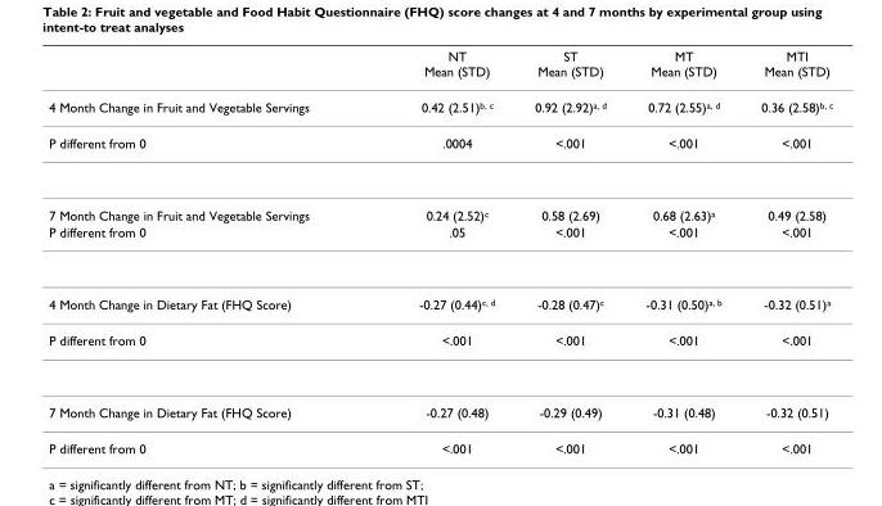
<table><thead><tr><td></td><td>NT Mean (STD)</td><td>ST Mean (STD)</td><td>MT Mean (STD)</td><td>MTI Mean (STD)</td></tr></thead><tbody><tr><td>4 Month Change in Fruit and Vegetable Servings</td><td>0.42 (2.51)b, c</td><td>0.92 (2.92)a, d</td><td>0.72 (2.55)a, d</td><td>0.36 (2.58)b, c</td></tr><tr><td>P different from 0</td><td>.0004</td><td>&lt;.001</td><td>&lt;.001</td><td>&lt;.001</td></tr><tr><td>7 Month Change in Fruit and Vegetable Servings</td><td>0.24 (2.52)c</td><td>0.58 (2.69)</td><td>0.68 (2.63)a</td><td>0.49 (2.58)</td></tr><tr><td>P different from 0</td><td>.05</td><td>&lt;.001</td><td>&lt;.001</td><td>&lt;.001</td></tr><tr><td>4 Month Change in Dietary Fat (FHQ Score)</td><td>-0.27 (0.44)c, d</td><td>-0.28 (0.47)c</td><td>-0.31 (0.50)a, b</td><td>-0.32 (0.51)a</td></tr><tr><td>P different from 0</td><td>&lt;.001</td><td>&lt;.001</td><td>&lt;.001</td><td>&lt;.001</td></tr><tr><td>7 Month Change in Dietary Fat (FHQ Score)</td><td>-0.27 (0.48)</td><td>-0.29 (0.49)</td><td>-0.31 (0.48)</td><td>-0.32 (0.51)</td></tr><tr><td>P different from 0</td><td>&lt;.001</td><td>&lt;.001</td><td>&lt;.001</td><td>&lt;.001</td></tr></tbody></table>